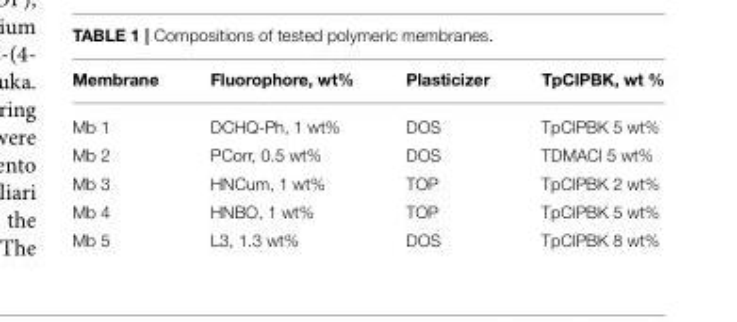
<table><thead><tr><td>Membrane</td><td>Fluorophore, wt%</td><td>Plasticizer</td><td>TpClPBK, wt %</td></tr></thead><tbody><tr><td>Mb 1</td><td>DCHQ-Ph, 1 wt%</td><td>DOS</td><td>TpClPBK 5 wt%</td></tr><tr><td>Mb 2</td><td>PCorr, 0.5 wt%</td><td>DOS</td><td>TDMACl 5 wt%</td></tr><tr><td>Mb 3</td><td>HNCum, 1 wt%</td><td>TOP</td><td>TpClPBK 2 wt%</td></tr><tr><td>Mb 4</td><td>HNBO, 1 wt%</td><td>TOP</td><td>TpClPBK 5 wt%</td></tr><tr><td>Mb 5</td><td>L3, 1.3 wt%</td><td>DOS</td><td>TpClPBK 8 wt%</td></tr></tbody></table>